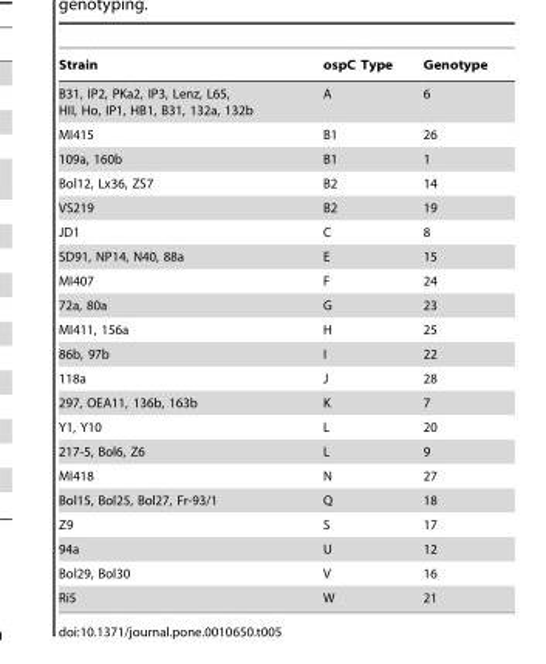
<table><thead><tr><td>Strain</td><td>ospC Type</td><td>Genotype</td></tr></thead><tbody><tr><td>B31, IP2, PKa2, IP3, Lenz, L65, HII, Ho, IP1, HB1, B31, 132a, 132b</td><td>A</td><td>6</td></tr><tr><td>MI415</td><td>B1</td><td>26</td></tr><tr><td>109a, 160b</td><td>B1</td><td>1</td></tr><tr><td>Bol12, Lx36, ZS7</td><td>B2</td><td>14</td></tr><tr><td>VS219</td><td>B2</td><td>19</td></tr><tr><td>JD1</td><td>C</td><td>8</td></tr><tr><td>SD91, NP14, N40, 88a</td><td>E</td><td>15</td></tr><tr><td>MI407</td><td>F</td><td>24</td></tr><tr><td>72a, 80a</td><td>G</td><td>23</td></tr><tr><td>MI411, 156a</td><td>H</td><td>25</td></tr><tr><td>86b, 97b</td><td>I</td><td>22</td></tr><tr><td>118a</td><td>J</td><td>28</td></tr><tr><td>297, OEA11, 136b, 163b</td><td>K</td><td>7</td></tr><tr><td>Y1, Y10</td><td>L</td><td>20</td></tr><tr><td>217-5, Bol6, Z6</td><td>L</td><td>9</td></tr><tr><td>MI418</td><td>N</td><td>27</td></tr><tr><td>Bol15, Bol25, Bol27, Fr-93/1</td><td>Q</td><td>18</td></tr><tr><td>Z9</td><td>S</td><td>17</td></tr><tr><td>94a</td><td>U</td><td>12</td></tr><tr><td>Bol29, Bol30</td><td>V</td><td>16</td></tr><tr><td>Ri5</td><td>W</td><td>21</td></tr></tbody></table>